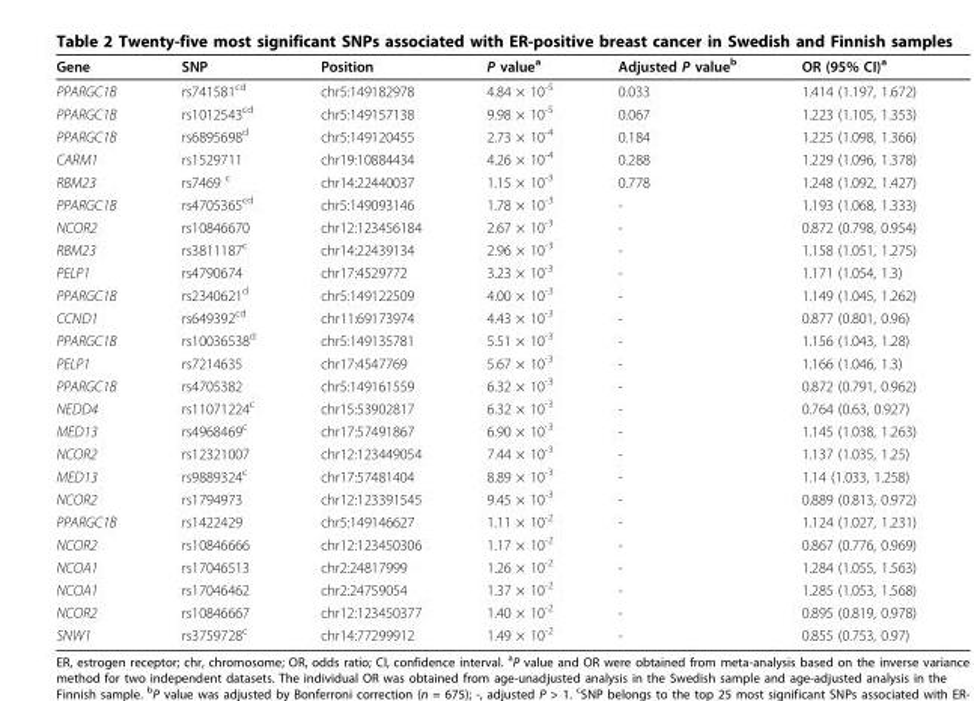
<table><thead><tr><td>Gene</td><td>SNP</td><td>Position</td><td>P value<sup>a</sup></td><td>Adjusted P value<sup>b</sup></td><td>OR (95% CI)<sup>a</sup></td></tr></thead><tbody><tr><td>PPARGC1B</td><td>rs741581<sup>cd</sup></td><td>chr5:149182978</td><td>4.84 × 10<sup>-5</sup></td><td>0.033</td><td>1.414 (1.197, 1.672)</td></tr><tr><td>PPARGC1B</td><td>rs1012543<sup>cd</sup></td><td>chr5:149157138</td><td>9.98 × 10<sup>-5</sup></td><td>0.067</td><td>1.223 (1.105, 1.353)</td></tr><tr><td>PPARGC1B</td><td>rs6895698<sup>d</sup></td><td>chr5:149120455</td><td>2.73 × 10<sup>-4</sup></td><td>0.184</td><td>1.225 (1.098, 1.366)</td></tr><tr><td>CARM1</td><td>rs1529711</td><td>chr19:10884434</td><td>4.26 × 10<sup>-4</sup></td><td>0.288</td><td>1.229 (1.096, 1.378)</td></tr><tr><td>RBM23</td><td>rs7469 <sup>c</sup></td><td>chr14:22440037</td><td>1.15 × 10<sup>-3</sup></td><td>0.778</td><td>1.248 (1.092, 1.427)</td></tr><tr><td>PPARGC1B</td><td>rs4705365<sup>cd</sup></td><td>chr5:149093146</td><td>1.78 × 10<sup>-3</sup></td><td>-</td><td>1.193 (1.068, 1.333)</td></tr><tr><td>NCOR2</td><td>rs10846670</td><td>chr12:123456184</td><td>2.67 × 10<sup>-3</sup></td><td>-</td><td>0.872 (0.798, 0.954)</td></tr><tr><td>RBM23</td><td>rs3811187<sup>c</sup></td><td>chr14:22439134</td><td>2.96 × 10<sup>-3</sup></td><td>-</td><td>1.158 (1.051, 1.275)</td></tr><tr><td>PELP1</td><td>rs4790674</td><td>chr17:4529772</td><td>3.23 × 10<sup>-3</sup></td><td>-</td><td>1.171 (1.054, 1.3)</td></tr><tr><td>PPARGC1B</td><td>rs2340621<sup>d</sup></td><td>chr5:149122509</td><td>4.00 × 10<sup>-3</sup></td><td>-</td><td>1.149 (1.045, 1.262)</td></tr><tr><td>CCND1</td><td>rs649392<sup>cd</sup></td><td>chr11:69173974</td><td>4.43 × 10<sup>-3</sup></td><td>-</td><td>0.877 (0.801, 0.96)</td></tr><tr><td>PPARGC1B</td><td>rs10036538<sup>d</sup></td><td>chr5:149135781</td><td>5.51 × 10<sup>-3</sup></td><td>-</td><td>1.156 (1.043, 1.28)</td></tr><tr><td>PELP1</td><td>rs7214635</td><td>chr17:4547769</td><td>5.67 × 10<sup>-3</sup></td><td>-</td><td>1.166 (1.046, 1.3)</td></tr><tr><td>PPARGC1B</td><td>rs4705382</td><td>chr5:149161559</td><td>6.32 × 10<sup>-3</sup></td><td>-</td><td>0.872 (0.791, 0.962)</td></tr><tr><td>NEDD4</td><td>rs11071224<sup>c</sup></td><td>chr15:53902817</td><td>6.32 × 10<sup>-3</sup></td><td>-</td><td>0.764 (0.63, 0.927)</td></tr><tr><td>MED13</td><td>rs4968469<sup>c</sup></td><td>chr17:57491867</td><td>6.90 × 10<sup>-3</sup></td><td>-</td><td>1.145 (1.038, 1.263)</td></tr><tr><td>NCOR2</td><td>rs12321007</td><td>chr12:123449054</td><td>7.44 × 10<sup>-3</sup></td><td>-</td><td>1.137 (1.035, 1.25)</td></tr><tr><td>MED13</td><td>rs9889324<sup>c</sup></td><td>chr17:57481404</td><td>8.89 × 10<sup>-3</sup></td><td>-</td><td>1.14 (1.033, 1.258)</td></tr><tr><td>NCOR2</td><td>rs1794973</td><td>chr12:123391545</td><td>9.45 × 10<sup>-3</sup></td><td>-</td><td>0.889 (0.813, 0.972)</td></tr><tr><td>PPARGC1B</td><td>rs1422429</td><td>chr5:149146627</td><td>1.11 × 10<sup>-2</sup></td><td>-</td><td>1.124 (1.027, 1.231)</td></tr><tr><td>NCOR2</td><td>rs10846666</td><td>chr12:123450306</td><td>1.17 × 10<sup>-2</sup></td><td>-</td><td>0.867 (0.776, 0.969)</td></tr><tr><td>NCOA1</td><td>rs17046513</td><td>chr2:24817999</td><td>1.26 × 10<sup>-2</sup></td><td>-</td><td>1.284 (1.055, 1.563)</td></tr><tr><td>NCOA1</td><td>rs17046462</td><td>chr2:24759054</td><td>1.37 × 10<sup>-2</sup></td><td>-</td><td>1.285 (1.053, 1.568)</td></tr><tr><td>NCOR2</td><td>rs10846667</td><td>chr12:123450377</td><td>1.40 × 10<sup>-2</sup></td><td>-</td><td>0.895 (0.819, 0.978)</td></tr><tr><td>SNW1</td><td>rs3759728<sup>c</sup></td><td>chr14:77299912</td><td>1.49 × 10<sup>-2</sup></td><td>-</td><td>0.855 (0.753, 0.97)</td></tr></tbody></table>